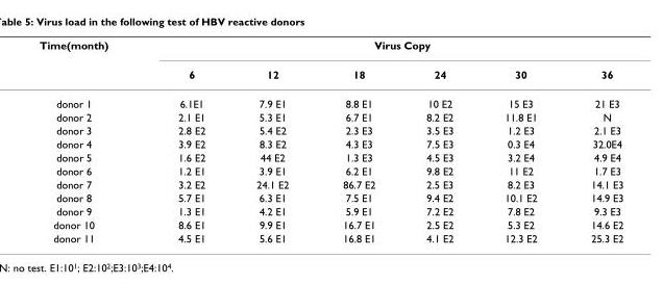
<table><thead><tr><td rowspan="2">Time(month)</td><td colspan="6">Virus Copy</td></tr><tr><td>6</td><td>12</td><td>18</td><td>24</td><td>30</td><td>36</td></tr></thead><tbody><tr><td>donor 1</td><td>6.1E1</td><td>7.9 E1</td><td>8.8 E1</td><td>10 E2</td><td>15 E3</td><td>21 E3</td></tr><tr><td>donor 2</td><td>2.1 E1</td><td>5.3 E1</td><td>6.7 E1</td><td>8.2 E2</td><td>11.8 E1</td><td>N</td></tr><tr><td>donor 3</td><td>2.8 E2</td><td>5.4 E2</td><td>2.3 E3</td><td>3.5 E3</td><td>1.2 E3</td><td>2.1 E3</td></tr><tr><td>donor 4</td><td>3.9 E2</td><td>8.3 E2</td><td>4.3 E3</td><td>7.5 E3</td><td>0.3 E4</td><td>32.0E4</td></tr><tr><td>donor 5</td><td>1.6 E2</td><td>44 E2</td><td>1.3 E3</td><td>4.5 E3</td><td>3.2 E4</td><td>4.9 E4</td></tr><tr><td>donor 6</td><td>1.2 E1</td><td>3.9 E1</td><td>6.2 E1</td><td>9.8 E2</td><td>11 E2</td><td>1.7 E3</td></tr><tr><td>donor 7</td><td>3.2 E2</td><td>24.1 E2</td><td>86.7 E2</td><td>2.5 E3</td><td>8.2 E3</td><td>14.1 E3</td></tr><tr><td>donor 8</td><td>5.7 E1</td><td>6.3 E1</td><td>7.5 E1</td><td>9.4 E2</td><td>10.1 E2</td><td>14.9 E3</td></tr><tr><td>donor 9</td><td>1.3 E1</td><td>4.2 E1</td><td>5.9 E1</td><td>7.2 E2</td><td>7.8 E2</td><td>9.3 E3</td></tr><tr><td>donor 10</td><td>8.6 E1</td><td>9.9 E1</td><td>16.7 E1</td><td>2.5 E2</td><td>5.3 E2</td><td>14.6 E2</td></tr><tr><td>donor 11</td><td>4.5 E1</td><td>5.6 E1</td><td>16.8 E1</td><td>4.1 E2</td><td>12.3 E2</td><td>25.3 E2</td></tr></tbody></table>